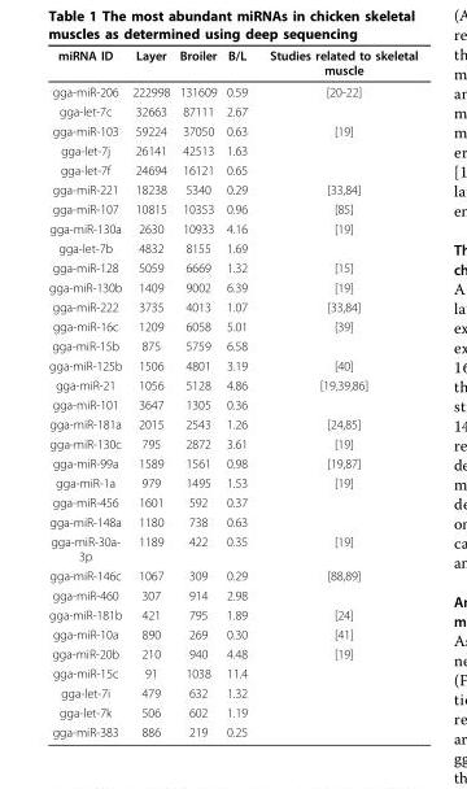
<table><thead><tr><td>miRNA ID</td><td>Layer</td><td>Broiler</td><td>B/L</td><td>Studies related to skeletal muscle</td></tr></thead><tbody><tr><td>gga-miR-206</td><td>222998</td><td>131609</td><td>0.59</td><td>[20-22]</td></tr><tr><td>gga-let-7c</td><td>32663</td><td>87111</td><td>2.67</td><td></td></tr><tr><td>gga-miR-103</td><td>59224</td><td>37050</td><td>0.63</td><td>[19]</td></tr><tr><td>gga-let-7j</td><td>26141</td><td>42513</td><td>1.63</td><td></td></tr><tr><td>gga-let-7f</td><td>24694</td><td>16121</td><td>0.65</td><td></td></tr><tr><td>gga-miR-221</td><td>18238</td><td>5340</td><td>0.29</td><td>[33,84]</td></tr><tr><td>gga-miR-107</td><td>10815</td><td>10353</td><td>0.96</td><td>[85]</td></tr><tr><td>gga-miR-130a</td><td>2630</td><td>10933</td><td>4.16</td><td>[19]</td></tr><tr><td>gga-let-7b</td><td>4832</td><td>8155</td><td>1.69</td><td></td></tr><tr><td>gga-miR-128</td><td>5059</td><td>6669</td><td>1.32</td><td>[15]</td></tr><tr><td>gga-miR-130b</td><td>1409</td><td>9002</td><td>6.39</td><td>[19]</td></tr><tr><td>gga-miR-222</td><td>3735</td><td>4013</td><td>1.07</td><td>[33,84]</td></tr><tr><td>gga-miR-16c</td><td>1209</td><td>6058</td><td>5.01</td><td>[39]</td></tr><tr><td>gga-miR-15b</td><td>875</td><td>5759</td><td>6.58</td><td></td></tr><tr><td>gga-miR-125b</td><td>1506</td><td>4801</td><td>3.19</td><td>[40]</td></tr><tr><td>gga-miR-21</td><td>1056</td><td>5128</td><td>4.86</td><td>[19,39,86]</td></tr><tr><td>gga-miR-101</td><td>3647</td><td>1305</td><td>0.36</td><td></td></tr><tr><td>gga-miR-181a</td><td>2015</td><td>2543</td><td>1.26</td><td>[24,85]</td></tr><tr><td>gga-miR-130c</td><td>795</td><td>2872</td><td>3.61</td><td>[19]</td></tr><tr><td>gga-miR-99a</td><td>1589</td><td>1561</td><td>0.98</td><td>[19,87]</td></tr><tr><td>gga-miR-1a</td><td>979</td><td>1495</td><td>1.53</td><td>[19]</td></tr><tr><td>gga-miR-456</td><td>1601</td><td>592</td><td>0.37</td><td></td></tr><tr><td>gga-miR-148a</td><td>1180</td><td>738</td><td>0.63</td><td></td></tr><tr><td>gga-miR-30a- 3p</td><td>1189</td><td>422</td><td>0.35</td><td>[19]</td></tr><tr><td>gga-miR-146c</td><td>1067</td><td>309</td><td>0.29</td><td>[88,89]</td></tr><tr><td>gga-miR-460</td><td>307</td><td>914</td><td>2.98</td><td></td></tr><tr><td>gga-miR-181b</td><td>421</td><td>795</td><td>1.89</td><td>[24]</td></tr><tr><td>gga-miR-10a</td><td>890</td><td>269</td><td>0.30</td><td>[41]</td></tr><tr><td>gga-miR-20b</td><td>210</td><td>940</td><td>4.48</td><td>[19]</td></tr><tr><td>gga-miR-15c</td><td>91</td><td>1038</td><td>11.4</td><td></td></tr><tr><td>gga-let-7i</td><td>479</td><td>632</td><td>1.32</td><td></td></tr><tr><td>gga-let-7k</td><td>506</td><td>602</td><td>1.19</td><td></td></tr><tr><td>gga-miR-383</td><td>886</td><td>219</td><td>0.25</td><td></td></tr></tbody></table>